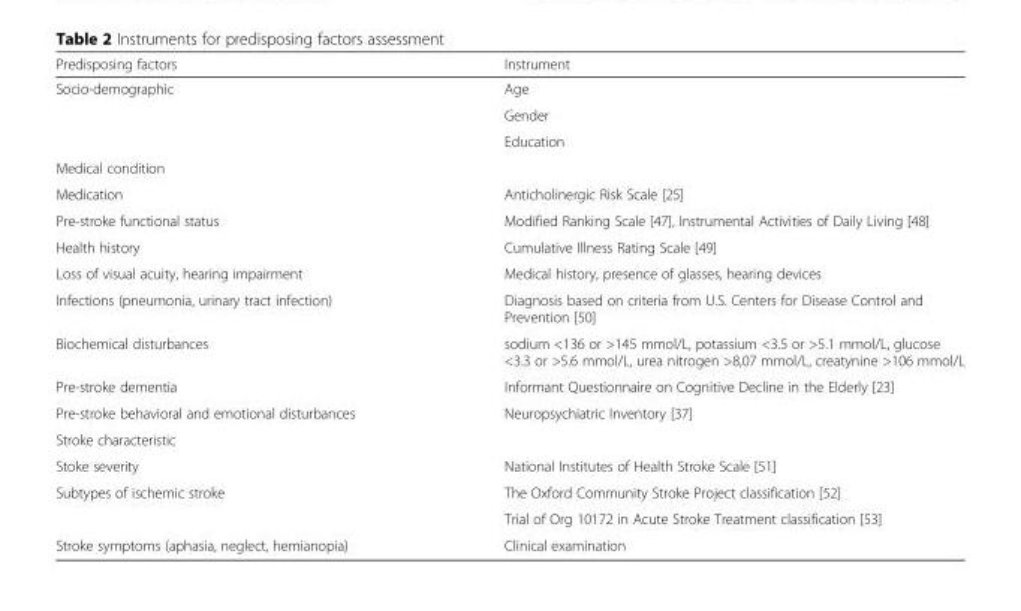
<table><thead><tr><td>Predisposing factors</td><td>Instrument</td></tr></thead><tbody><tr><td rowspan="3">Socio-demographic</td><td>Age</td></tr><tr><td>Gender</td></tr><tr><td>Education</td></tr><tr><td colspan="2">Medical condition</td></tr><tr><td>Medication</td><td>Anticholinergic Risk Scale [25]</td></tr><tr><td>Pre-stroke functional status</td><td>Modified Ranking Scale [47], Instrumental Activities of Daily Living [48]</td></tr><tr><td>Health history</td><td>Cumulative Illness Rating Scale [49]</td></tr><tr><td>Loss of visual acuity, hearing impairment</td><td>Medical history, presence of glasses, hearing devices</td></tr><tr><td>Infections (pneumonia, urinary tract infection)</td><td>Diagnosis based on criteria from U.S. Centers for Disease Control and Prevention [50]</td></tr><tr><td>Biochemical disturbances</td><td>sodium &lt;136 or &gt;145 mmol/L, potassium &lt;3.5 or &gt;5.1 mmol/L, glucose &lt;3.3 or &gt;5.6 mmol/L, urea nitrogen &gt;8,07 mmol/L, creatynine &gt;106 mmol/L</td></tr><tr><td>Pre-stroke dementia</td><td>Informant Questionnaire on Cognitive Decline in the Elderly [23]</td></tr><tr><td>Pre-stroke behavioral and emotional disturbances</td><td>Neuropsychiatric Inventory [37]</td></tr><tr><td colspan="2">Stroke characteristic</td></tr><tr><td>Stoke severity</td><td>National Institutes of Health Stroke Scale [51]</td></tr><tr><td rowspan="2">Subtypes of ischemic stroke</td><td>The Oxford Community Stroke Project classification [52]</td></tr><tr><td>Trial of Org 10172 in Acute Stroke Treatment classification [53]</td></tr><tr><td>Stroke symptoms (aphasia, neglect, hemianopia)</td><td>Clinical examination</td></tr></tbody></table>